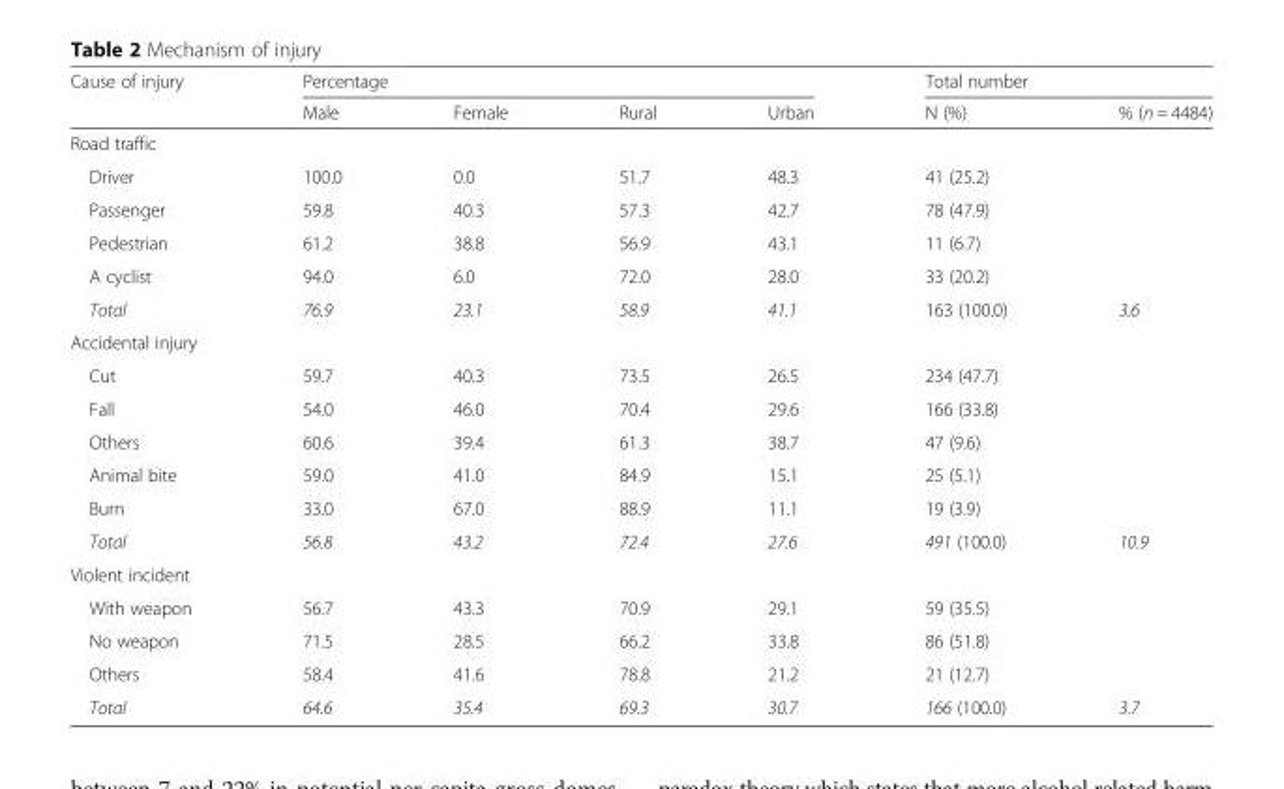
<table><thead><tr><td rowspan="2">Cause of injury</td><td colspan="4">Percentage</td><td colspan="2">Total number</td></tr><tr><td>Male</td><td>Female</td><td>Rural</td><td>Urban</td><td>N (%)</td><td>% (n = 4484)</td></tr></thead><tbody><tr><td colspan="7">Road traffic</td></tr><tr><td>Driver</td><td>100.0</td><td>0.0</td><td>51.7</td><td>48.3</td><td>41 (25.2)</td><td></td></tr><tr><td>Passenger</td><td>59.8</td><td>40.3</td><td>57.3</td><td>42.7</td><td>78 (47.9)</td><td></td></tr><tr><td>Pedestrian</td><td>61.2</td><td>38.8</td><td>56.9</td><td>43.1</td><td>11 (6.7)</td><td></td></tr><tr><td>A cyclist</td><td>94.0</td><td>6.0</td><td>72.0</td><td>28.0</td><td>33 (20.2)</td><td></td></tr><tr><td>Total</td><td>76.9</td><td>23.1</td><td>58.9</td><td>41.1</td><td>163 (100.0)</td><td>3.6</td></tr><tr><td colspan="7">Accidental injury</td></tr><tr><td>Cut</td><td>59.7</td><td>40.3</td><td>73.5</td><td>26.5</td><td>234 (47.7)</td><td></td></tr><tr><td>Fall</td><td>54.0</td><td>46.0</td><td>70.4</td><td>29.6</td><td>166 (33.8)</td><td></td></tr><tr><td>Others</td><td>60.6</td><td>39.4</td><td>61.3</td><td>38.7</td><td>47 (9.6)</td><td></td></tr><tr><td>Animal bite</td><td>59.0</td><td>41.0</td><td>84.9</td><td>15.1</td><td>25 (5.1)</td><td></td></tr><tr><td>Burn</td><td>33.0</td><td>67.0</td><td>88.9</td><td>11.1</td><td>19 (3.9)</td><td></td></tr><tr><td>Total</td><td>56.8</td><td>43.2</td><td>72.4</td><td>27.6</td><td>491 (100.0)</td><td>10.9</td></tr><tr><td colspan="7">Violent incident</td></tr><tr><td>With weapon</td><td>56.7</td><td>43.3</td><td>70.9</td><td>29.1</td><td>59 (35.5)</td><td></td></tr><tr><td>No weapon</td><td>71.5</td><td>28.5</td><td>66.2</td><td>33.8</td><td>86 (51.8)</td><td></td></tr><tr><td>Others</td><td>58.4</td><td>41.6</td><td>78.8</td><td>21.2</td><td>21 (12.7)</td><td></td></tr><tr><td>Total</td><td>64.6</td><td>35.4</td><td>69.3</td><td>30.7</td><td>166 (100.0)</td><td>3.7</td></tr></tbody></table>